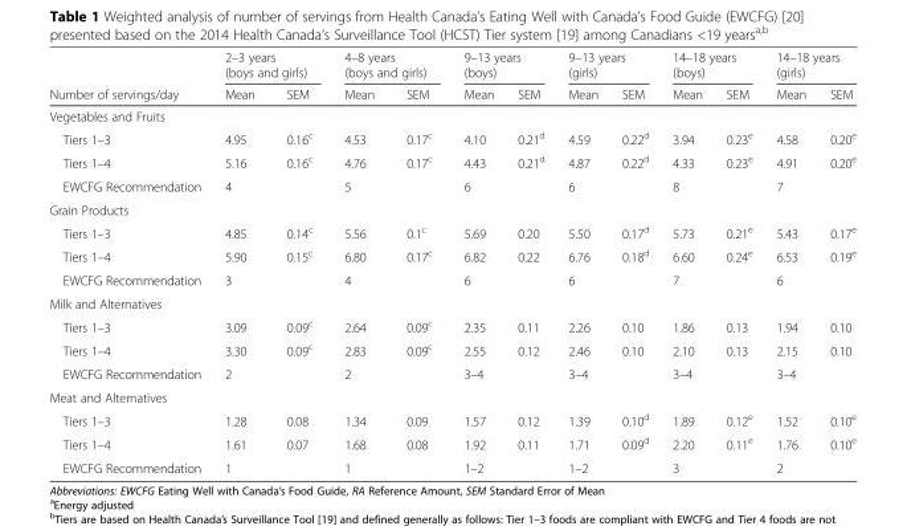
<table><thead><tr><td rowspan="2">Number of servings/day</td><td colspan="2">2–3 years (boys and girls)</td><td colspan="2">4–8 years (boys and girls)</td><td colspan="2">9–13 years (boys)</td><td colspan="2">9–13 years (girls)</td><td colspan="2">14–18 years (boys)</td><td colspan="2">14–18 years (girls)</td></tr><tr><td>Mean</td><td>SEM</td><td>Mean</td><td>SEM</td><td>Mean</td><td>SEM</td><td>Mean</td><td>SEM</td><td>Mean</td><td>SEM</td><td>Mean</td><td>SEM</td></tr></thead><tbody><tr><td colspan="13">Vegetables and Fruits</td></tr><tr><td>Tiers 1–3</td><td>4.95</td><td>0.16<sup>c</sup></td><td>4.53</td><td>0.17<sup>c</sup></td><td>4.10</td><td>0.21<sup>d</sup></td><td>4.59</td><td>0.22<sup>d</sup></td><td>3.94</td><td>0.23<sup>e</sup></td><td>4.58</td><td>0.20<sup>e</sup></td></tr><tr><td>Tiers 1–4</td><td>5.16</td><td>0.16<sup>c</sup></td><td>4.76</td><td>0.17<sup>c</sup></td><td>4.43</td><td>0.21<sup>d</sup></td><td>4.87</td><td>0.22<sup>d</sup></td><td>4.33</td><td>0.23<sup>e</sup></td><td>4.91</td><td>0.20<sup>e</sup></td></tr><tr><td>EWCFG Recommendation</td><td colspan="2">4</td><td colspan="2">5</td><td colspan="2">6</td><td colspan="2">6</td><td colspan="2">8</td><td colspan="2">7</td></tr><tr><td colspan="13">Grain Products</td></tr><tr><td>Tiers 1–3</td><td>4.85</td><td>0.14<sup>c</sup></td><td>5.56</td><td>0.1<sup>c</sup></td><td>5.69</td><td>0.20</td><td>5.50</td><td>0.17<sup>d</sup></td><td>5.73</td><td>0.21<sup>e</sup></td><td>5.43</td><td>0.17<sup>e</sup></td></tr><tr><td>Tiers 1–4</td><td>5.90</td><td>0.15<sup>c</sup></td><td>6.80</td><td>0.17<sup>c</sup></td><td>6.82</td><td>0.22</td><td>6.76</td><td>0.18<sup>d</sup></td><td>6.60</td><td>0.24<sup>e</sup></td><td>6.53</td><td>0.19<sup>e</sup></td></tr><tr><td>EWCFG Recommendation</td><td colspan="2">3</td><td colspan="2">4</td><td colspan="2">6</td><td colspan="2">6</td><td colspan="2">7</td><td colspan="2">6</td></tr><tr><td colspan="13">Milk and Alternatives</td></tr><tr><td>Tiers 1–3</td><td>3.09</td><td>0.09<sup>c</sup></td><td>2.64</td><td>0.09<sup>c</sup></td><td>2.35</td><td>0.11</td><td>2.26</td><td>0.10</td><td>1.86</td><td>0.13</td><td>1.94</td><td>0.10</td></tr><tr><td>Tiers 1–4</td><td>3.30</td><td>0.09<sup>c</sup></td><td>2.83</td><td>0.09<sup>c</sup></td><td>2.55</td><td>0.12</td><td>2.46</td><td>0.10</td><td>2.10</td><td>0.13</td><td>2.15</td><td>0.10</td></tr><tr><td>EWCFG Recommendation</td><td colspan="2">2</td><td colspan="2">2</td><td colspan="2">3–4</td><td colspan="2">3–4</td><td colspan="2">3–4</td><td colspan="2">3–4</td></tr><tr><td colspan="13">Meat and Alternatives</td></tr><tr><td>Tiers 1–3</td><td>1.28</td><td>0.08</td><td>1.34</td><td>0.09</td><td>1.57</td><td>0.12</td><td>1.39</td><td>0.10<sup>d</sup></td><td>1.89</td><td>0.12<sup>e</sup></td><td>1.52</td><td>0.10<sup>e</sup></td></tr><tr><td>Tiers 1–4</td><td>1.61</td><td>0.07</td><td>1.68</td><td>0.08</td><td>1.92</td><td>0.11</td><td>1.71</td><td>0.09<sup>d</sup></td><td>2.20</td><td>0.11<sup>e</sup></td><td>1.76</td><td>0.10<sup>e</sup></td></tr><tr><td>EWCFG Recommendation</td><td colspan="2">1</td><td colspan="2">1</td><td colspan="2">1–2</td><td colspan="2">1–2</td><td colspan="2">3</td><td colspan="2">2</td></tr></tbody></table>